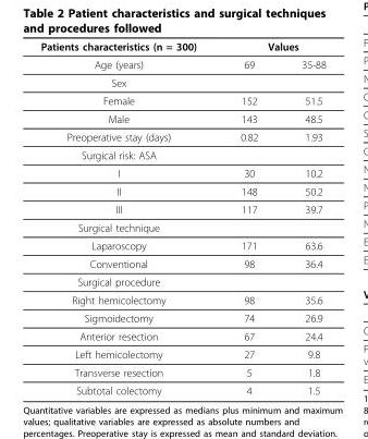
<table><thead><tr><td rowspan="2">Patients characteristics (n = 300) Age (years)</td><td colspan="2">Values</td></tr><tr><td>69</td><td>35-88</td></tr></thead><tbody><tr><td colspan="3">Sex</td></tr><tr><td>Female</td><td>152</td><td>51.5</td></tr><tr><td>Male</td><td>143</td><td>48.5</td></tr><tr><td>Preoperative stay (days)</td><td>0.82</td><td>1.93</td></tr><tr><td colspan="3">Surgical risk: ASA</td></tr><tr><td>I</td><td>30</td><td>10.2</td></tr><tr><td>II</td><td>148</td><td>50.2</td></tr><tr><td>III</td><td>117</td><td>39.7</td></tr><tr><td colspan="3">Surgical technique</td></tr><tr><td>Laparoscopy</td><td>171</td><td>63.6</td></tr><tr><td>Conventional</td><td>98</td><td>36.4</td></tr><tr><td colspan="3">Surgical procedure</td></tr><tr><td>Right hemicolectomy</td><td>98</td><td>35.6</td></tr><tr><td>Sigmoidectomy</td><td>74</td><td>26.9</td></tr><tr><td>Anterior resection</td><td>67</td><td>24.4</td></tr><tr><td>Left hemicolectomy</td><td>27</td><td>9.8</td></tr><tr><td>Transverse resection</td><td>5</td><td>1.8</td></tr><tr><td>Subtotal colectomy</td><td>4</td><td>1.5</td></tr></tbody></table>